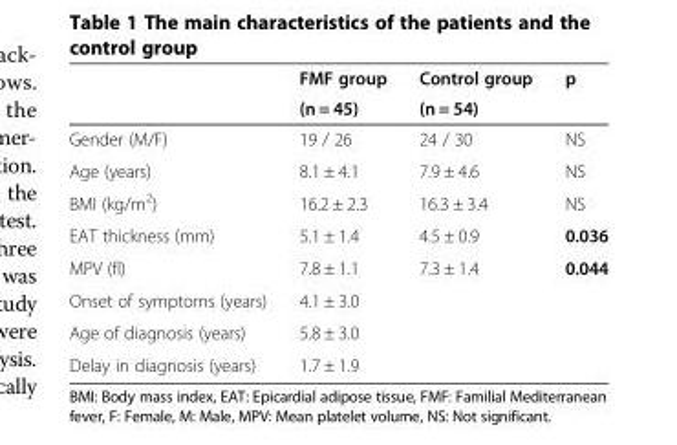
<table><thead><tr><td rowspan="2"></td><td rowspan="2">FMF group (n = 45)</td><td rowspan="2">Control group (n = 54)</td><td rowspan="2">p</td></tr><tr></tr></thead><tbody><tr><td>Gender (M/F)</td><td>19 / 26</td><td>24 / 30</td><td>NS</td></tr><tr><td>Age (years)</td><td>8.1 ± 4.1</td><td>7.9 ± 4.6</td><td>NS</td></tr><tr><td>BMI (kg/m<sup>2</sup>)</td><td>16.2 ± 2.3</td><td>16.3 ± 3.4</td><td>NS</td></tr><tr><td>EAT thickness (mm)</td><td>5.1 ± 1.4</td><td>4.5 ± 0.9</td><td>0.036</td></tr><tr><td>MPV (fl)</td><td>7.8 ± 1.1</td><td>7.3 ± 1.4</td><td>0.044</td></tr><tr><td>Onset of symptoms (years)</td><td>4.1 ± 3.0</td><td></td><td></td></tr><tr><td>Age of diagnosis (years)</td><td>5.8 ± 3.0</td><td></td><td></td></tr><tr><td>Delay in diagnosis (years)</td><td>1.7 ± 1.9</td><td></td><td></td></tr></tbody></table>